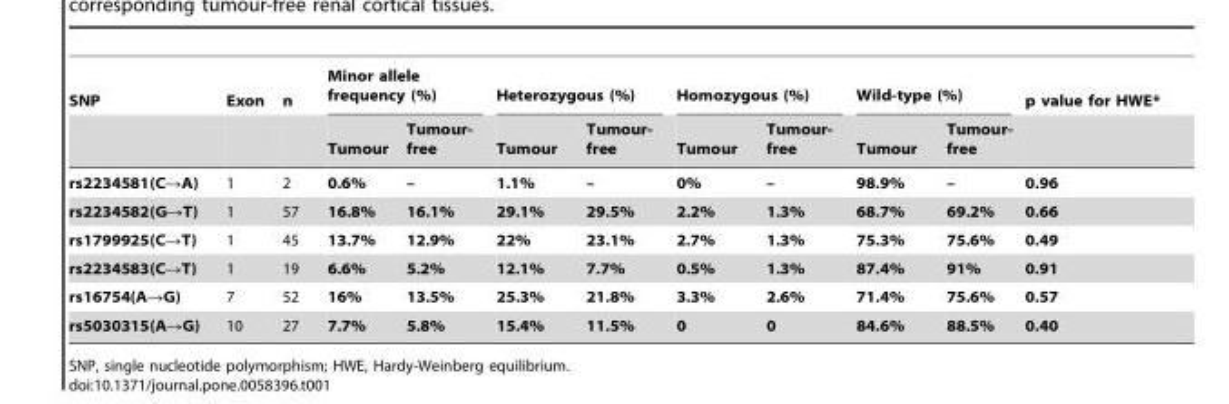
<table><thead><tr><td rowspan="2">SNP</td><td rowspan="2">Exon</td><td rowspan="2">n</td><td colspan="2">Minor allele frequency (%)</td><td colspan="2">Heterozygous (%)</td><td colspan="2">Homozygous (%)</td><td colspan="2">Wild-type (%)</td><td rowspan="2">p value for HWE*</td></tr><tr><td>Tumour</td><td>Tumour- free</td><td>Tumour</td><td>Tumour- free</td><td>Tumour</td><td>Tumour- free</td><td>Tumour</td><td>Tumour- free</td></tr></thead><tbody><tr><td>rs2234581(C→A)</td><td>1</td><td>2</td><td>0.6%</td><td>–</td><td>1.1%</td><td>–</td><td>0%</td><td>–</td><td>98.9%</td><td>–</td><td>0.96</td></tr><tr><td>rs2234582(G→T)</td><td>1</td><td>57</td><td>16.8%</td><td>16.1%</td><td>29.1%</td><td>29.5%</td><td>2.2%</td><td>1.3%</td><td>68.7%</td><td>69.2%</td><td>0.66</td></tr><tr><td>rs1799925(C→T)</td><td>1</td><td>45</td><td>13.7%</td><td>12.9%</td><td>22%</td><td>23.1%</td><td>2.7%</td><td>1.3%</td><td>75.3%</td><td>75.6%</td><td>0.49</td></tr><tr><td>rs2234583(C→T)</td><td>1</td><td>19</td><td>6.6%</td><td>5.2%</td><td>12.1%</td><td>7.7%</td><td>0.5%</td><td>1.3%</td><td>87.4%</td><td>91%</td><td>0.91</td></tr><tr><td>rs16754(A→G)</td><td>7</td><td>52</td><td>16%</td><td>13.5%</td><td>25.3%</td><td>21.8%</td><td>3.3%</td><td>2.6%</td><td>71.4%</td><td>75.6%</td><td>0.57</td></tr><tr><td>rs5030315(A→G)</td><td>10</td><td>27</td><td>7.7%</td><td>5.8%</td><td>15.4%</td><td>11.5%</td><td>0</td><td>0</td><td>84.6%</td><td>88.5%</td><td>0.40</td></tr></tbody></table>